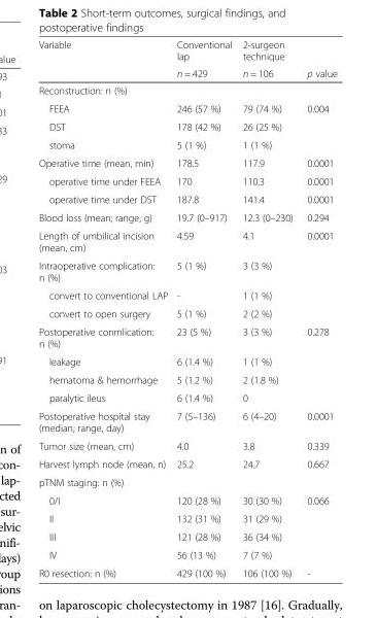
<table><thead><tr><td rowspan="2">Variable</td><td rowspan="2">Conventional lap n = 429</td><td rowspan="2">2-surgeon technique n = 106</td><td rowspan="2">p value</td></tr><tr></tr></thead><tbody><tr><td colspan="4">Reconstruction: n (%)</td></tr><tr><td>FEEA</td><td>246 (57 %)</td><td>79 (74 %)</td><td rowspan="3">0.004</td></tr><tr><td>DST</td><td>178 (42 %)</td><td>26 (25 %)</td></tr><tr><td>stoma</td><td>5 (1 %)</td><td>1 (1 %)</td></tr><tr><td>Operative time (mean, min)</td><td>178.5</td><td>117.9</td><td>0.0001</td></tr><tr><td>operative time under FEEA</td><td>170</td><td>110.3</td><td>0.0001</td></tr><tr><td>operative time under DST</td><td>187.8</td><td>141.4</td><td>0.0001</td></tr><tr><td>Blood loss (mean; range, g)</td><td>19.7 (0–917)</td><td>12.3 (0–230)</td><td>0.294</td></tr><tr><td>Length of umbilical incision (mean, cm)</td><td>4.59</td><td>4.1</td><td>0.0001</td></tr><tr><td>Intraoperative complication: n (%)</td><td>5 (1 %)</td><td>3 (3 %)</td><td></td></tr><tr><td>convert to conventional LAP</td><td>-</td><td>1 (1 %)</td><td></td></tr><tr><td>convert to open surgery</td><td>5 (1 %)</td><td>2 (2 %)</td><td></td></tr><tr><td>Postoperative conmlication: n (%)</td><td>23 (5 %)</td><td>3 (3 %)</td><td>0.278</td></tr><tr><td>leakage</td><td>6 (1.4 %)</td><td>1 (1 %)</td><td></td></tr><tr><td>hematoma &amp; hemorrhage</td><td>5 (1.2 %)</td><td>2 (1.8 %)</td><td></td></tr><tr><td>paralytic ileus</td><td>6 (1.4 %)</td><td>0</td><td></td></tr><tr><td>Postoperative hospital stay (median; range, day)</td><td>7 (5–136)</td><td>6 (4–20)</td><td>0.0001</td></tr><tr><td>Tumor size (mean, cm)</td><td>4.0</td><td>3.8</td><td>0.339</td></tr><tr><td>Harvest lymph node (mean, n)</td><td>25.2</td><td>24.7</td><td>0.667</td></tr><tr><td colspan="4">pTNM staging: n (%)</td></tr><tr><td>0/I</td><td>120 (28 %)</td><td>30 (30 %)</td><td rowspan="4">0.066</td></tr><tr><td>II</td><td>132 (31 %)</td><td>31 (29 %)</td></tr><tr><td>III</td><td>121 (28 %)</td><td>36 (34 %)</td></tr><tr><td>IV</td><td>56 (13 %)</td><td>7 (7 %)</td></tr><tr><td>R0 resection: n (%)</td><td>429 (100 %)</td><td>106 (100 %)</td><td>-</td></tr></tbody></table>